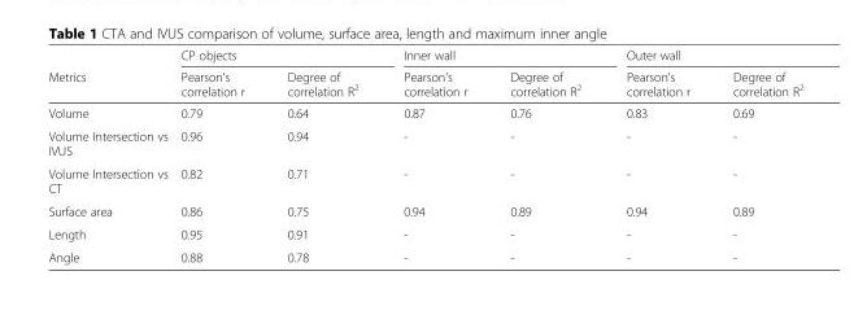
<table><thead><tr><td rowspan="2">Metrics</td><td colspan="2">CP objects</td><td colspan="2">Inner wall</td><td colspan="2">Outer wall</td></tr><tr><td>Pearson&#x27;s correlation r</td><td>Degree of correlation R<sup>2</sup></td><td>Pearson&#x27;s correlation r</td><td>Degree of correlation R<sup>2</sup></td><td>Pearson&#x27;s correlation r</td><td>Degree of correlation R<sup>2</sup></td></tr></thead><tbody><tr><td>Volume</td><td>0.79</td><td>0.64</td><td>0.87</td><td>0.76</td><td>0.83</td><td>0.69</td></tr><tr><td>Volume Intersection vs IVUS</td><td>0.96</td><td>0.94</td><td>-</td><td>-</td><td>-</td><td>-</td></tr><tr><td>Volume Intersection vs CT</td><td>0.82</td><td>0.71</td><td>-</td><td>-</td><td>-</td><td>-</td></tr><tr><td>Surface area</td><td>0.86</td><td>0.75</td><td>0.94</td><td>0.89</td><td>0.94</td><td>0.89</td></tr><tr><td>Length</td><td>0.95</td><td>0.91</td><td>-</td><td>-</td><td>-</td><td>-</td></tr><tr><td>Angle</td><td>0.88</td><td>0.78</td><td>-</td><td>-</td><td>-</td><td>-</td></tr></tbody></table>